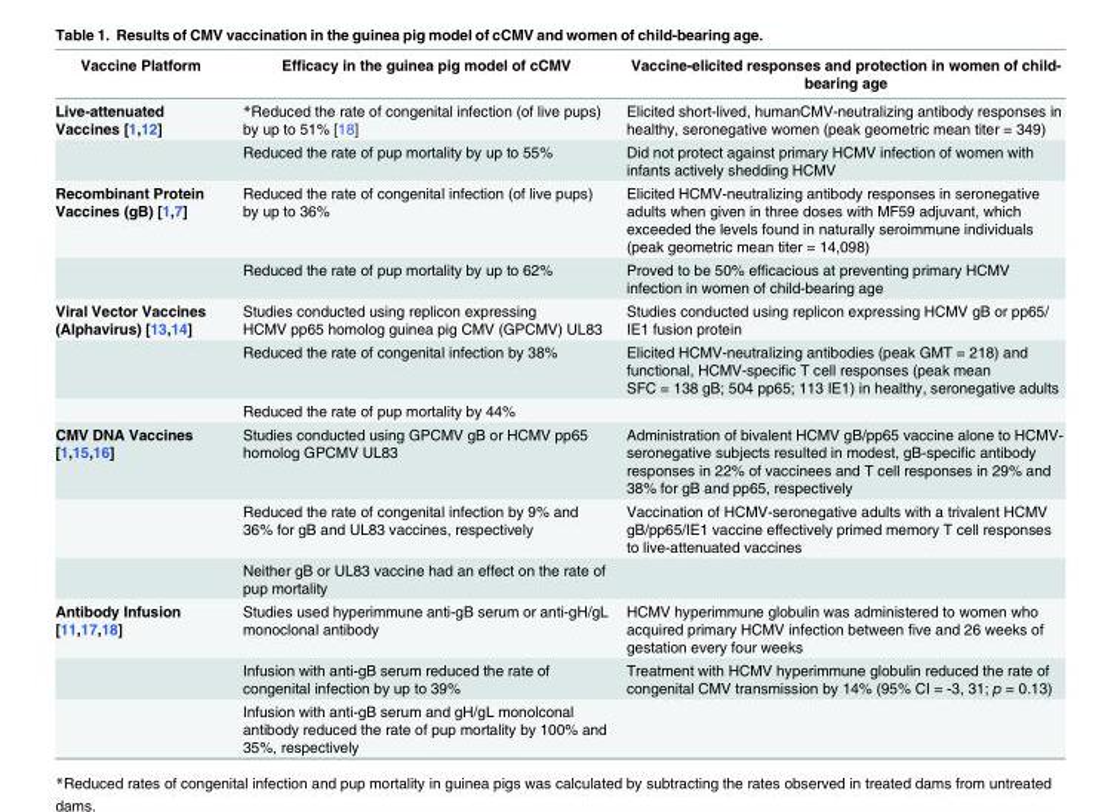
<table><thead><tr><td>Vaccine Platform</td><td>Efficacy in the guinea pig model of cCMV</td><td>Vaccine-elicited responses and protection in women of child- bearing age</td></tr></thead><tbody><tr><td rowspan="2">Live-attenuated Vaccines [1,12]</td><td>*Reduced the rate of congenital infection (of live pups) by up to 51% [18]</td><td>Elicited short-lived, humanCMV-neutralizing antibody responses in healthy, seronegative women (peak geometric mean titer = 349)</td></tr><tr><td>Reduced the rate of pup mortality by up to 55%</td><td>Did not protect against primary HCMV infection of women with infants actively shedding HCMV</td></tr><tr><td rowspan="2">Recombinant Protein Vaccines (gB) [1,7]</td><td>Reduced the rate of congenital infection (of live pups) by up to 36%</td><td>Elicited HCMV-neutralizing antibody responses in seronegative adults when given in three doses with MF59 adjuvant, which exceeded the levels found in naturally seroimmune individuals (peak geometric mean titer = 14,098)</td></tr><tr><td>Reduced the rate of pup mortality by up to 62%</td><td>Proved to be 50% efficacious at preventing primary HCMV infection in women of child-bearing age</td></tr><tr><td rowspan="3">Viral Vector Vaccines (Alphavirus) [13,14]</td><td>Studies conducted using replicon expressing HCMV pp65 homolog guinea pig CMV (GPCMV) UL83</td><td>Studies conducted using replicon expressing HCMV gB or pp65/ IE1 fusion protein</td></tr><tr><td>Reduced the rate of congenital infection by 38%</td><td>Elicited HCMV-neutralizing antibodies (peak GMT = 218) and functional, HCMV-specific T cell responses (peak mean SFC = 138 gB; 504 pp65; 113 IE1) in healthy, seronegative adults</td></tr><tr><td>Reduced the rate of pup mortality by 44%</td><td></td></tr><tr><td rowspan="3">CMV DNA Vaccines [1,15,16]</td><td>Studies conducted using GPCMV gB or HCMV pp65 homolog GPCMV UL83</td><td>Administration of bivalent HCMV gB/pp65 vaccine alone to HCMV- seronegative subjects resulted in modest, gB-specific antibody responses in 22% of vaccinees and T cell responses in 29% and 38% for gB and pp65, respectively</td></tr><tr><td>Reduced the rate of congenital infection by 9% and 36% for gB and UL83 vaccines, respectively</td><td>Vaccination of HCMV-seronegative adults with a trivalent HCMV gB/pp65/IE1 vaccine effectively primed memory T cell responses to live-attenuated vaccines</td></tr><tr><td>Neither gB or UL83 vaccine had an effect on the rate of pup mortality</td><td></td></tr><tr><td rowspan="3">Antibody Infusion [11,17,18]</td><td>Studies used hyperimmune anti-gB serum or anti-gH/gL monoclonal antibody</td><td>HCMV hyperimmune globulin was administered to women who acquired primary HCMV infection between five and 26 weeks of gestation every four weeks</td></tr><tr><td>Infusion with anti-gB serum reduced the rate of congenital infection by up to 39%</td><td>Treatment with HCMV hyperimmune globulin reduced the rate of congenital CMV transmission by 14% (95% CI = -3, 31; p = 0.13)</td></tr><tr><td>Infusion with anti-gB serum and gH/gL monolconal antibody reduced the rate of pup mortality by 100% and 35%, respectively</td><td></td></tr></tbody></table>